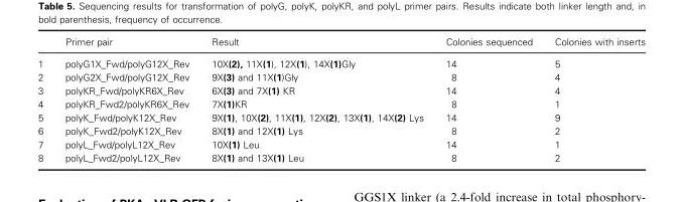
<table><thead><tr><td></td><td>Primer pair</td><td>Result</td><td>Colonies sequenced</td><td>Colonies with inserts</td></tr></thead><tbody><tr><td>1</td><td>polyG1X_Fwd/polyG12X_Rev</td><td>10X(2), 11X(1), 12X(1), 14X(1)Gly</td><td>14</td><td>5</td></tr><tr><td>2</td><td>polyG2X_Fwd/polyG12X_Rev</td><td>9X(3) and 11X(1)Gly</td><td>8</td><td>4</td></tr><tr><td>3</td><td>polyKR_Fwd/polyKR6X_Rev</td><td>6X(3) and 7X(1) KR</td><td>14</td><td>4</td></tr><tr><td>4</td><td>polyKR_Fwd2/polyKR6X_Rev</td><td>7X(1)KR</td><td>8</td><td>1</td></tr><tr><td>5</td><td>polyK_Fwd/polyK12X_Rev</td><td>9X(1), 10X(2), 11X(1), 12X(2), 13X(1), 14X(2) Lys</td><td>14</td><td>9</td></tr><tr><td>6</td><td>polyK_Fwd2/polyK12X_Rev</td><td>8X(1) and 12X(1) Lys</td><td>8</td><td>2</td></tr><tr><td>7</td><td>polyL_Fwd/polyL12X_Rev</td><td>10X(1) Leu</td><td>14</td><td>1</td></tr><tr><td>8</td><td>polyL_Fwd2/polyL12X_Rev</td><td>8X(1) and 13X(1) Leu</td><td>8</td><td>2</td></tr></tbody></table>